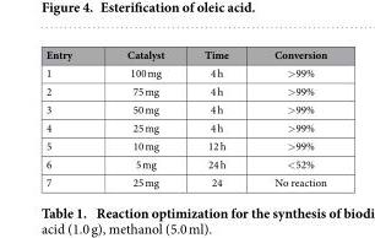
<table><thead><tr><td>Entry</td><td>Catalyst</td><td>Time</td><td>Conversion</td></tr></thead><tbody><tr><td>1</td><td>100 mg</td><td>4 h</td><td>&gt; 99%</td></tr><tr><td>2</td><td>75 mg</td><td>4 h</td><td>&gt; 99%</td></tr><tr><td>3</td><td>50 mg</td><td>4 h</td><td>&gt; 99%</td></tr><tr><td>4</td><td>25 mg</td><td>4 h</td><td>&gt; 99%</td></tr><tr><td>5</td><td>10 mg</td><td>12 h</td><td>&gt; 99%</td></tr><tr><td>6</td><td>5 mg</td><td>24 h</td><td>&lt; 52%</td></tr><tr><td>7</td><td>25 mg</td><td>24</td><td>No reaction</td></tr></tbody></table>